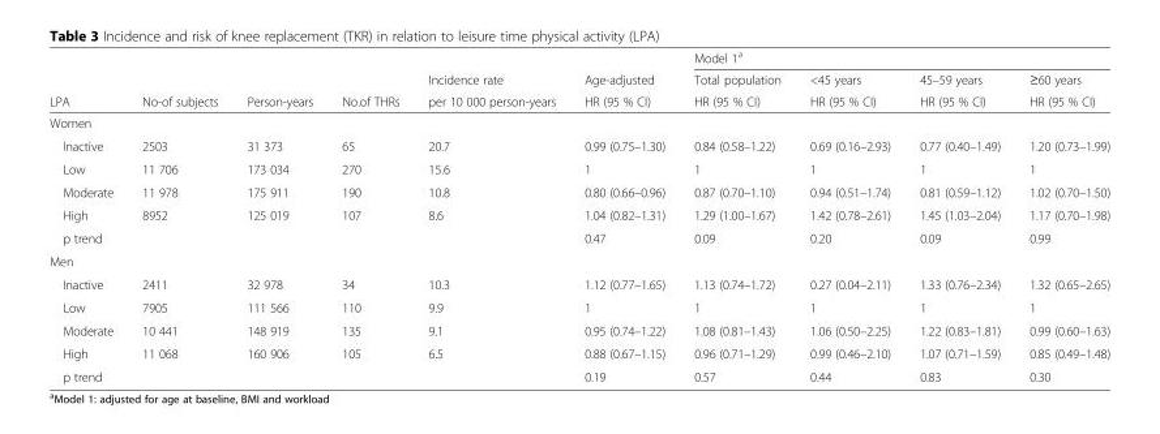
<table><thead><tr><td rowspan="3">LPA</td><td rowspan="3">No-of subjects</td><td rowspan="3">Person-years</td><td rowspan="3">No.of THRs</td><td rowspan="3">Incidence rate per 10 000 person-years</td><td rowspan="3">Age-adjusted HR (95 % CI)</td><td colspan="4">Model 1<sup>a</sup></td></tr><tr><td rowspan="2">Total population HR (95 % CI)</td><td rowspan="2">&lt;45 years HR (95 % CI)</td><td rowspan="2">45–59 years HR (95 % CI)</td><td rowspan="2">≥60 years HR (95 % CI)</td></tr><tr></tr></thead><tbody><tr><td colspan="10">Women</td></tr><tr><td>Inactive</td><td>2503</td><td>31 373</td><td>65</td><td>20.7</td><td>0.99 (0.75–1.30)</td><td>0.84 (0.58–1.22)</td><td>0.69 (0.16–2.93)</td><td>0.77 (0.40–1.49)</td><td>1.20 (0.73–1.99)</td></tr><tr><td>Low</td><td>11 706</td><td>173 034</td><td>270</td><td>15.6</td><td>1</td><td>1</td><td>1</td><td>1</td><td>1</td></tr><tr><td>Moderate</td><td>11 978</td><td>175 911</td><td>190</td><td>10.8</td><td>0.80 (0.66–0.96)</td><td>0.87 (0.70–1.10)</td><td>0.94 (0.51–1.74)</td><td>0.81 (0.59–1.12)</td><td>1.02 (0.70–1.50)</td></tr><tr><td>High</td><td>8952</td><td>125 019</td><td>107</td><td>8.6</td><td>1.04 (0.82–1.31)</td><td>1.29 (1.00–1.67)</td><td>1.42 (0.78–2.61)</td><td>1.45 (1.03–2.04)</td><td>1.17 (0.70–1.98)</td></tr><tr><td>p trend</td><td></td><td></td><td></td><td></td><td>0.47</td><td>0.09</td><td>0.20</td><td>0.09</td><td>0.99</td></tr><tr><td colspan="10">Men</td></tr><tr><td>Inactive</td><td>2411</td><td>32 978</td><td>34</td><td>10.3</td><td>1.12 (0.77–1.65)</td><td>1.13 (0.74–1.72)</td><td>0.27 (0.04–2.11)</td><td>1.33 (0.76–2.34)</td><td>1.32 (0.65–2.65)</td></tr><tr><td>Low</td><td>7905</td><td>111 566</td><td>110</td><td>9.9</td><td>1</td><td>1</td><td>1</td><td>1</td><td>1</td></tr><tr><td>Moderate</td><td>10 441</td><td>148 919</td><td>135</td><td>9.1</td><td>0.95 (0.74–1.22)</td><td>1.08 (0.81–1.43)</td><td>1.06 (0.50–2.25)</td><td>1.22 (0.83–1.81)</td><td>0.99 (0.60–1.63)</td></tr><tr><td>High</td><td>11 068</td><td>160 906</td><td>105</td><td>6.5</td><td>0.88 (0.67–1.15)</td><td>0.96 (0.71–1.29)</td><td>0.99 (0.46–2.10)</td><td>1.07 (0.71–1.59)</td><td>0.85 (0.49–1.48)</td></tr><tr><td>p trend</td><td></td><td></td><td></td><td></td><td>0.19</td><td>0.57</td><td>0.44</td><td>0.83</td><td>0.30</td></tr></tbody></table>